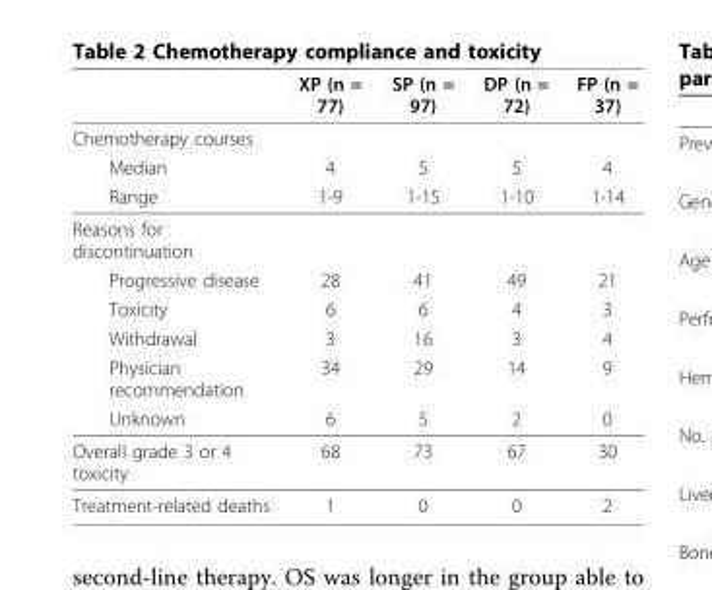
<table><thead><tr><td></td><td>XP (n = 77)</td><td>SP (n = 97)</td><td>DP (n = 72)</td><td>FP (n = 37)</td></tr></thead><tbody><tr><td colspan="5">Chemotherapy courses</td></tr><tr><td>Median</td><td>4</td><td>5</td><td>5</td><td>4</td></tr><tr><td>Range</td><td>1-9</td><td>1-15</td><td>1-10</td><td>1-14</td></tr><tr><td colspan="5">Reasons for discontinuation</td></tr><tr><td>Progressive disease</td><td>28</td><td>41</td><td>49</td><td>21</td></tr><tr><td>Toxicity</td><td>6</td><td>6</td><td>4</td><td>3</td></tr><tr><td>Withdrawal</td><td>3</td><td>16</td><td>3</td><td>4</td></tr><tr><td>Physician recommendation</td><td>34</td><td>29</td><td>14</td><td>9</td></tr><tr><td>Unknown</td><td>6</td><td>5</td><td>2</td><td>0</td></tr><tr><td>Overall grade 3 or 4 toxicity</td><td>68</td><td>73</td><td>67</td><td>30</td></tr><tr><td>Treatment-related deaths</td><td>1</td><td>0</td><td>0</td><td>2</td></tr></tbody></table>